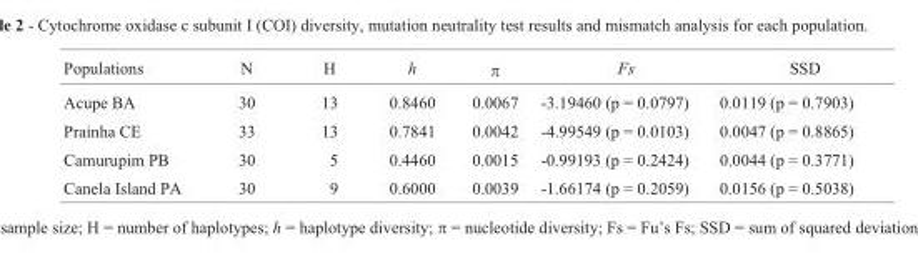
<table><thead><tr><td>Populations</td><td>N</td><td>H</td><td>h</td><td>π</td><td>Fs</td><td>SSD</td></tr></thead><tbody><tr><td>Acupe BA</td><td>30</td><td>13</td><td>0.8460</td><td>0.0067</td><td>-3.19460 (p = 0.0797)</td><td>0.0119 (p = 0.7903)</td></tr><tr><td>Prainha CE</td><td>33</td><td>13</td><td>0.7841</td><td>0.0042</td><td>-4.99549 (p = 0.0103)</td><td>0.0047 (p = 0.8865)</td></tr><tr><td>Camurupim PB</td><td>30</td><td>5</td><td>0.4460</td><td>0.0015</td><td>-0.99193 (p = 0.2424)</td><td>0.0044 (p = 0.3771)</td></tr><tr><td>Canela Island PA</td><td>30</td><td>9</td><td>0.6000</td><td>0.0039</td><td>-1.66174 (p = 0.2059)</td><td>0.0156 (p = 0.5038)</td></tr></tbody></table>